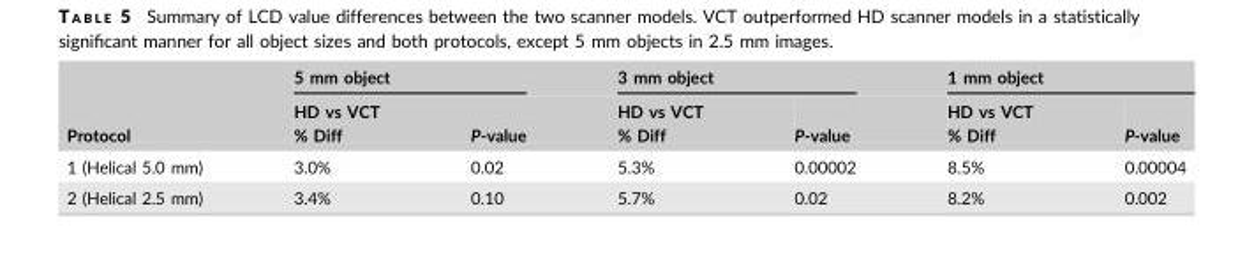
<table><thead><tr><td rowspan="2">Protocol</td><td colspan="2">5 mm object</td><td colspan="2">3 mm object</td><td colspan="2">1 mm object</td></tr><tr><td>HD vs VCT % Diff</td><td>P-value</td><td>HD vs VCT % Diff</td><td>P-value</td><td>HD vs VCT % Diff</td><td>P-value</td></tr></thead><tbody><tr><td>1 (Helical 5.0 mm)</td><td>3.0%</td><td>0.02</td><td>5.3%</td><td>0.00002</td><td>8.5%</td><td>0.00004</td></tr><tr><td>2 (Helical 2.5 mm)</td><td>3.4%</td><td>0.10</td><td>5.7%</td><td>0.02</td><td>8.2%</td><td>0.002</td></tr></tbody></table>